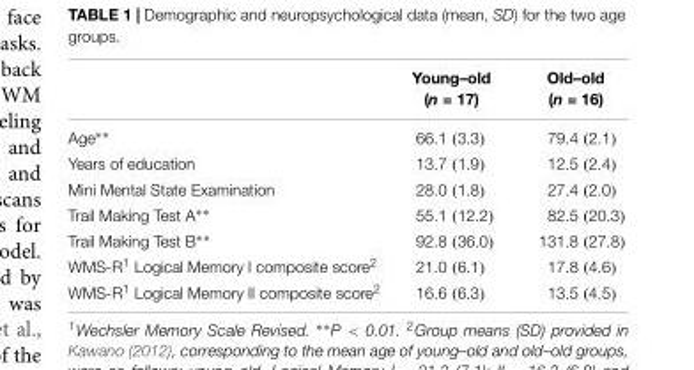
<table><thead><tr><td></td><td>Young–old (n = 17)</td><td>Old–old (n = 16)</td></tr></thead><tbody><tr><td>Age∗∗</td><td>66.1 (3.3)</td><td>79.4 (2.1)</td></tr><tr><td>Years of education</td><td>13.7 (1.9)</td><td>12.5 (2.4)</td></tr><tr><td>Mini Mental State Examination</td><td>28.0 (1.8)</td><td>27.4 (2.0)</td></tr><tr><td>Trail Making Test A∗∗</td><td>55.1 (12.2)</td><td>82.5 (20.3)</td></tr><tr><td>Trail Making Test B∗∗</td><td>92.8 (36.0)</td><td>131.8 (27.8)</td></tr><tr><td>WMS-R<sup>1</sup> Logical Memory I composite score<sup>2</sup></td><td>21.0 (6.1)</td><td>17.8 (4.6)</td></tr><tr><td>WMS-R<sup>1</sup> Logical Memory II composite score<sup>2</sup></td><td>16.6 (6.3)</td><td>13.5 (4.5)</td></tr></tbody></table>